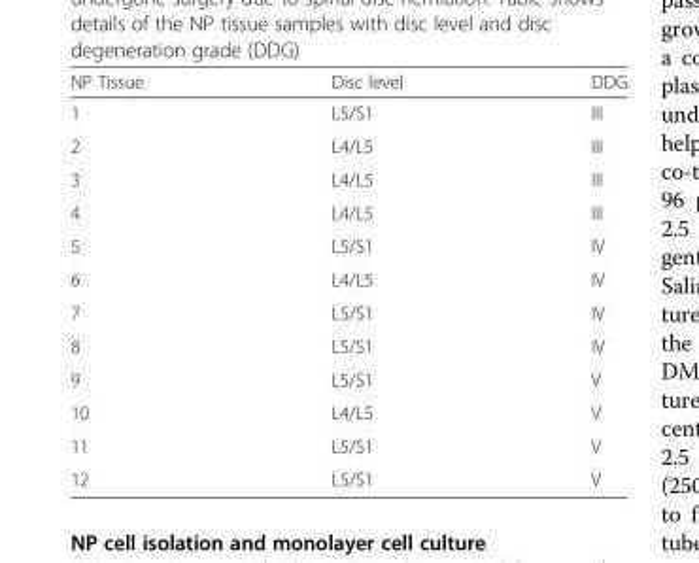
<table><thead><tr><td>NP Tissue</td><td>Disc level</td><td>DDG</td></tr></thead><tbody><tr><td>1</td><td>L5/S1</td><td>III</td></tr><tr><td>2</td><td>L4/L5</td><td>III</td></tr><tr><td>3</td><td>L4/L5</td><td>III</td></tr><tr><td>4</td><td>L4/L5</td><td>III</td></tr><tr><td>5</td><td>L5/S1</td><td>IV</td></tr><tr><td>6</td><td>L4/L5</td><td>IV</td></tr><tr><td>7</td><td>L5/S1</td><td>IV</td></tr><tr><td>8</td><td>L5/S1</td><td>IV</td></tr><tr><td>9</td><td>L5/S1</td><td>V</td></tr><tr><td>10</td><td>L4/L5</td><td>V</td></tr><tr><td>11</td><td>L5/S1</td><td>V</td></tr><tr><td>12</td><td>L5/S1</td><td>V</td></tr></tbody></table>